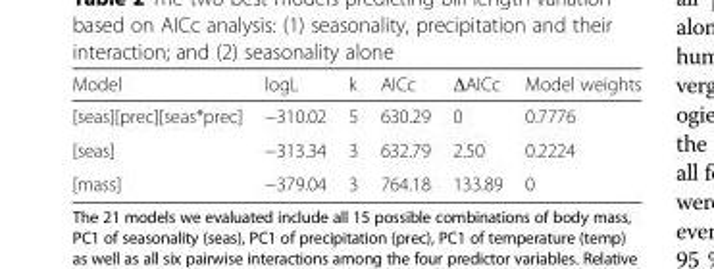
<table><thead><tr><td>Model</td><td>logL</td><td>k</td><td>AICc</td><td>ΔAICc</td><td>Model weights</td></tr></thead><tbody><tr><td>[seas][prec][seas*prec]</td><td>−310.02</td><td>5</td><td>630.29</td><td>0</td><td>0.7776</td></tr><tr><td>[seas]</td><td>−313.34</td><td>3</td><td>632.79</td><td>2.50</td><td>0.2224</td></tr><tr><td>[mass]</td><td>−379.04</td><td>3</td><td>764.18</td><td>133.89</td><td>0</td></tr></tbody></table>